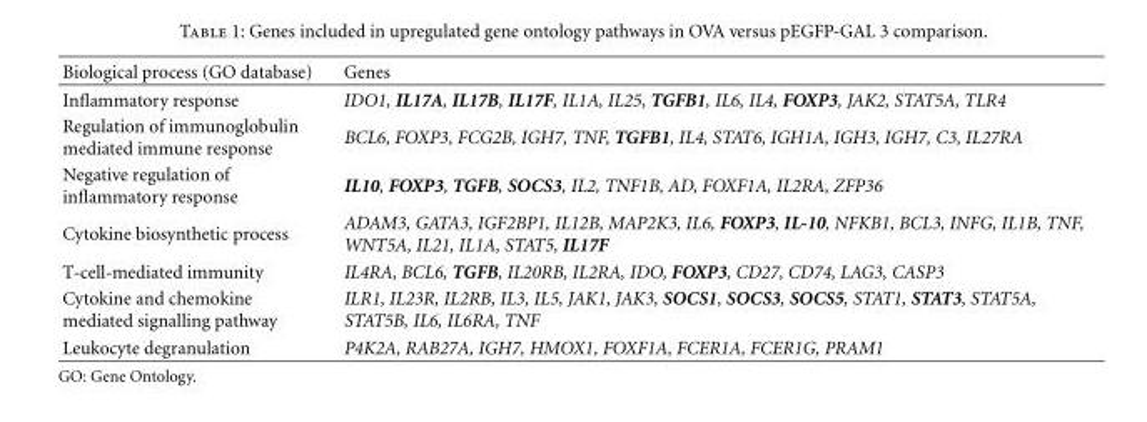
<table><thead><tr><td>Biological process (GO database)</td><td>Genes</td></tr></thead><tbody><tr><td>Inflammatory response</td><td>IDO1, IL17A, IL17B, IL17F, IL1A, IL25, TGFB1, IL6, IL4, FOXP3, JAK2, STAT5A, TLR4</td></tr><tr><td>Regulation of immunoglobulin mediated immune response</td><td>BCL6, FOXP3, FCG2B, IGH7, TNF, TGFB1, IL4, STAT6, IGH1A, IGH3, IGH7, C3, IL27RA</td></tr><tr><td>Negative regulation of inflammatory response</td><td>IL10, FOXP3, TGFB, SOCS3, IL2, TNF1B, AD, FOXF1A, IL2RA, ZFP36</td></tr><tr><td>Cytokine biosynthetic process</td><td>ADAM3, GATA3, IGF2BP1, IL12B, MAP2K3, IL6, FOXP3, IL-10, NFKB1, BCL3, INFG, IL1B, TNF, WNT5A, IL21, IL1A, STAT5, IL17F</td></tr><tr><td>T-cell-mediated immunity</td><td>IL4RA, BCL6, TGFB, IL20RB, IL2RA, IDO, FOXP3, CD27, CD74, LAG3, CASP3</td></tr><tr><td>Cytokine and chemokine mediated signalling pathway</td><td>ILR1, IL23R, IL2RB, IL3, IL5, JAK1, JAK3, SOCS1, SOCS3, SOCS5, STAT1, STAT3, STAT5A, STAT5B, IL6, IL6RA, TNF</td></tr><tr><td>Leukocyte degranulation</td><td>P4K2A, RAB27A, IGH7, HMOX1, FOXF1A, FCER1A, FCER1G, PRAM1</td></tr></tbody></table>